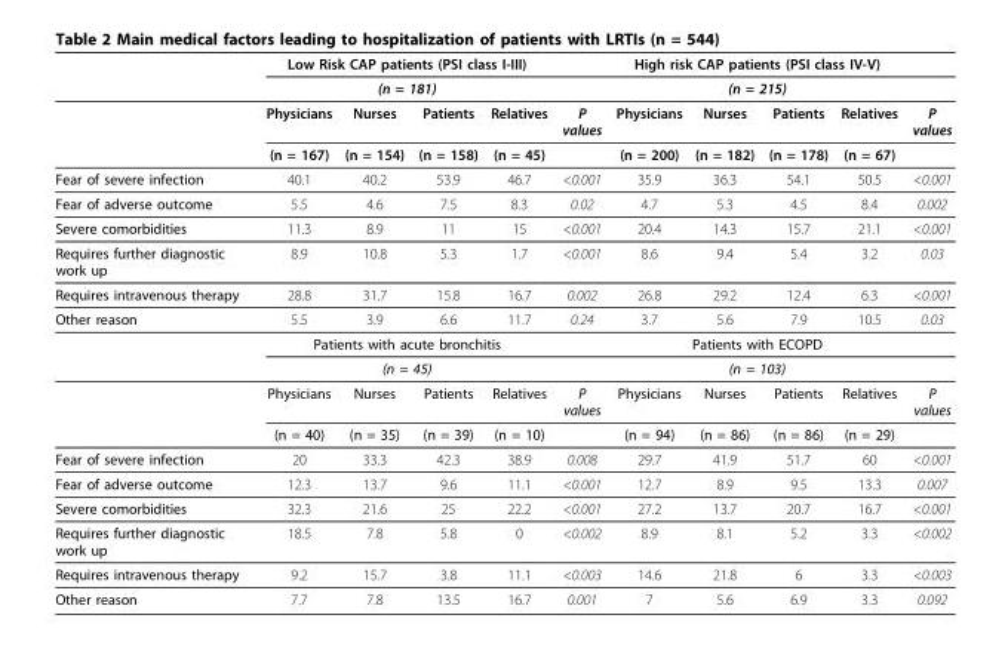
<table><thead><tr><td rowspan="3"></td><td rowspan="2" colspan="4">Low Risk CAP patients (PSI class I-III) (n = 181)</td><td rowspan="3">P values</td><td rowspan="2" colspan="4">High risk CAP patients (PSI class IV-V) (n = 215)</td><td rowspan="3">P values</td></tr><tr></tr><tr><td>Physicians</td><td>Nurses</td><td>Patients</td><td>Relatives</td><td>Physicians</td><td>Nurses</td><td>Patients</td><td>Relatives</td></tr></thead><tbody><tr><td></td><td>(n = 167)</td><td>(n = 154)</td><td>(n = 158)</td><td>(n = 45)</td><td></td><td>(n = 200)</td><td>(n = 182)</td><td>(n = 178)</td><td>(n = 67)</td><td></td></tr><tr><td>Fear of severe infection</td><td>40.1</td><td>40.2</td><td>53.9</td><td>46.7</td><td>&lt;0.001</td><td>35.9</td><td>36.3</td><td>54.1</td><td>50.5</td><td>&lt;0.001</td></tr><tr><td>Fear of adverse outcome</td><td>5.5</td><td>4.6</td><td>7.5</td><td>8.3</td><td>0.02</td><td>4.7</td><td>5.3</td><td>4.5</td><td>8.4</td><td>0.002</td></tr><tr><td>Severe comorbidities</td><td>11.3</td><td>8.9</td><td>11</td><td>15</td><td>&lt;0.001</td><td>20.4</td><td>14.3</td><td>15.7</td><td>21.1</td><td>&lt;0.001</td></tr><tr><td>Requires further diagnostic work up</td><td>8.9</td><td>10.8</td><td>5.3</td><td>1.7</td><td>&lt;0.001</td><td>8.6</td><td>9.4</td><td>5.4</td><td>3.2</td><td>0.03</td></tr><tr><td>Requires intravenous therapy</td><td>28.8</td><td>31.7</td><td>15.8</td><td>16.7</td><td>0.002</td><td>26.8</td><td>29.2</td><td>12.4</td><td>6.3</td><td>&lt;0.001</td></tr><tr><td rowspan="5">Other reason</td><td>5.5</td><td>3.9</td><td>6.6</td><td>11.7</td><td>0.24</td><td>3.7</td><td>5.6</td><td>7.9</td><td>10.5</td><td>0.03</td></tr><tr><td colspan="4">Patients with acute bronchitis</td><td></td><td colspan="4">Patients with ECOPD</td><td></td></tr><tr><td colspan="4">(n = 45)</td><td></td><td colspan="4">(n = 103)</td><td></td></tr><tr><td>Physicians</td><td>Nurses</td><td>Patients</td><td>Relatives</td><td>P values</td><td>Physicians</td><td>Nurses</td><td>Patients</td><td>Relatives</td><td>P values</td></tr><tr><td>(n = 40)</td><td>(n = 35)</td><td>(n = 39)</td><td>(n = 10)</td><td></td><td>(n = 94)</td><td>(n = 86)</td><td>(n = 86)</td><td>(n = 29)</td><td></td></tr><tr><td>Fear of severe infection</td><td>20</td><td>33.3</td><td>42.3</td><td>38.9</td><td>0.008</td><td>29.7</td><td>41.9</td><td>51.7</td><td>60</td><td>&lt;0.001</td></tr><tr><td>Fear of adverse outcome</td><td>12.3</td><td>13.7</td><td>9.6</td><td>11.1</td><td>&lt;0.001</td><td>12.7</td><td>8.9</td><td>9.5</td><td>13.3</td><td>0.007</td></tr><tr><td>Severe comorbidities</td><td>32.3</td><td>21.6</td><td>25</td><td>22.2</td><td>&lt;0.001</td><td>27.2</td><td>13.7</td><td>20.7</td><td>16.7</td><td>&lt;0.001</td></tr><tr><td>Requires further diagnostic work up</td><td>18.5</td><td>7.8</td><td>5.8</td><td>0</td><td>&lt;0.002</td><td>8.9</td><td>8.1</td><td>5.2</td><td>3.3</td><td>&lt;0.002</td></tr><tr><td>Requires intravenous therapy</td><td>9.2</td><td>15.7</td><td>3.8</td><td>11.1</td><td>&lt;0.003</td><td>14.6</td><td>21.8</td><td>6</td><td>3.3</td><td>&lt;0.003</td></tr><tr><td>Other reason</td><td>7.7</td><td>7.8</td><td>13.5</td><td>16.7</td><td>0.001</td><td>7</td><td>5.6</td><td>6.9</td><td>3.3</td><td>0.092</td></tr></tbody></table>